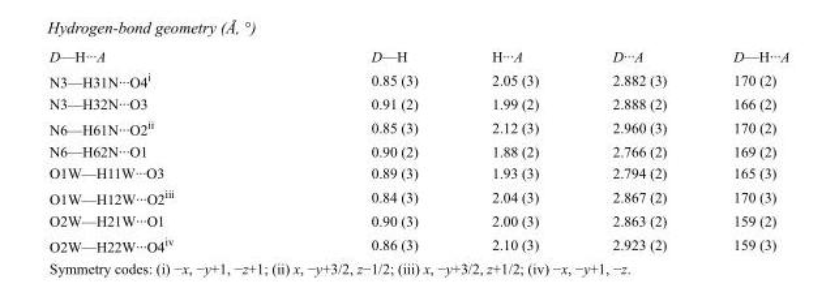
<table><tbody><tr><td>D—H···A</td><td>D—H</td><td>H···A</td><td>D···A</td><td>D—H···A</td></tr><tr><td>N3—H31N···O4<sup>i</sup></td><td>0.85 (3)</td><td>2.05 (3)</td><td>2.882 (3)</td><td>170 (2)</td></tr><tr><td>N3—H32N···O3</td><td>0.91 (2)</td><td>1.99 (2)</td><td>2.888 (2)</td><td>166 (2)</td></tr><tr><td>N6—H61N···O2<sup>ii</sup></td><td>0.85 (3)</td><td>2.12 (3)</td><td>2.960 (3)</td><td>170 (2)</td></tr><tr><td>N6—H62N···O1</td><td>0.90 (2)</td><td>1.88 (2)</td><td>2.766 (2)</td><td>169 (2)</td></tr><tr><td>O1W—H11W···O3</td><td>0.89 (3)</td><td>1.93 (3)</td><td>2.794 (2)</td><td>165 (3)</td></tr><tr><td>O1W—H12W···O2<sup>iii</sup></td><td>0.84 (3)</td><td>2.04 (3)</td><td>2.867 (2)</td><td>170 (3)</td></tr><tr><td>O2W—H21W···O1</td><td>0.90 (3)</td><td>2.00 (3)</td><td>2.863 (2)</td><td>159 (2)</td></tr><tr><td>O2W—H22W···O4<sup>iv</sup></td><td>0.86 (3)</td><td>2.10 (3)</td><td>2.923 (2)</td><td>159 (3)</td></tr></tbody></table>